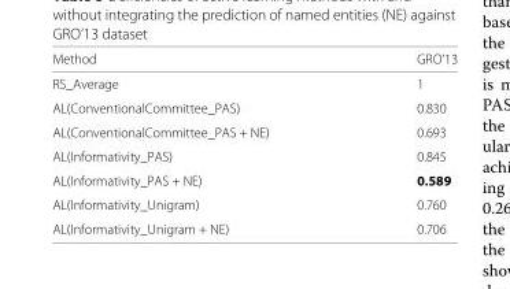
<table><thead><tr><td>Method</td><td>GRO’13</td></tr></thead><tbody><tr><td>RS_Average</td><td>1</td></tr><tr><td>AL(ConventionalCommittee_PAS)</td><td>0.830</td></tr><tr><td>AL(ConventionalCommittee_PAS + NE)</td><td>0.693</td></tr><tr><td>AL(Informativity_PAS)</td><td>0.845</td></tr><tr><td>AL(Informativity_PAS + NE)</td><td>0.589</td></tr><tr><td>AL(Informativity_Unigram)</td><td>0.760</td></tr><tr><td>AL(Informativity_Unigram + NE)</td><td>0.706</td></tr></tbody></table>